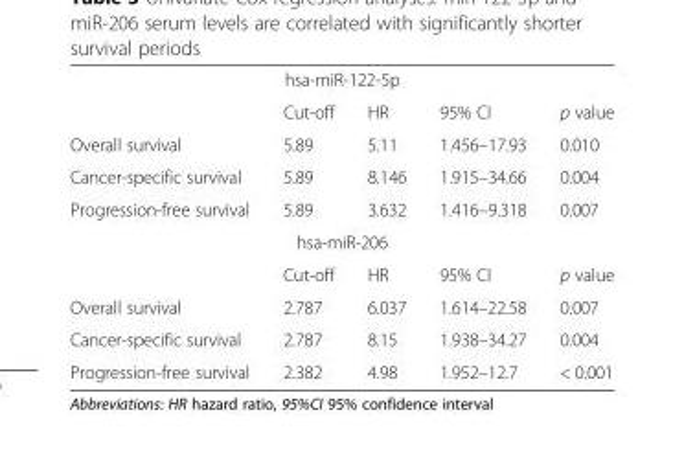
<table><tbody><tr><td colspan="5">hsa-miR-122-5p</td></tr><tr><td></td><td>Cut-off</td><td>HR</td><td>95% CI</td><td>p value</td></tr><tr><td>Overall survival</td><td>5.89</td><td>5.11</td><td>1.456–17.93</td><td>0.010</td></tr><tr><td>Cancer-specific survival</td><td>5.89</td><td>8.146</td><td>1.915–34.66</td><td>0.004</td></tr><tr><td>Progression-free survival</td><td>5.89</td><td>3.632</td><td>1.416–9.318</td><td>0.007</td></tr><tr><td colspan="5">hsa-miR-206</td></tr><tr><td></td><td>Cut-off</td><td>HR</td><td>95% CI</td><td>p value</td></tr><tr><td>Overall survival</td><td>2.787</td><td>6.037</td><td>1.614–22.58</td><td>0.007</td></tr><tr><td>Cancer-specific survival</td><td>2.787</td><td>8.15</td><td>1.938–34.27</td><td>0.004</td></tr><tr><td>Progression-free survival</td><td>2.382</td><td>4.98</td><td>1.952–12.7</td><td>&lt; 0.001</td></tr></tbody></table>